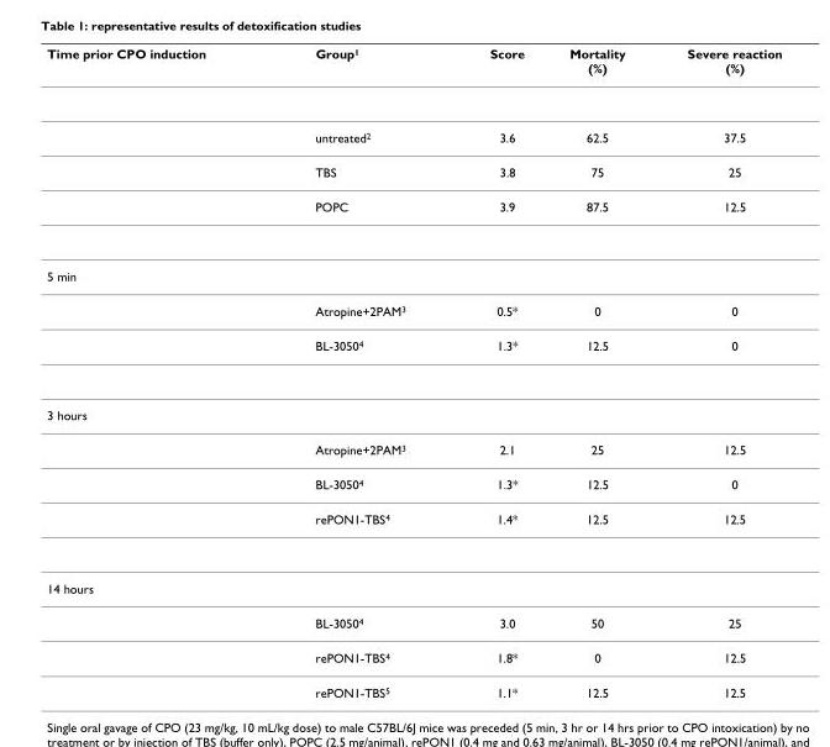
<table><thead><tr><td>Time prior CPO induction</td><td>Group1</td><td>Score</td><td>Mortality (%)</td><td>Severe reaction (%)</td></tr></thead><tbody><tr><td></td><td>untreated2</td><td>3.6</td><td>62.5</td><td>37.5</td></tr><tr><td></td><td>TBS</td><td>3.8</td><td>75</td><td>25</td></tr><tr><td></td><td>POPC</td><td>3.9</td><td>87.5</td><td>12.5</td></tr><tr><td colspan="5">5 min</td></tr><tr><td></td><td>Atropine+2PAM3</td><td>0.5*</td><td>0</td><td>0</td></tr><tr><td></td><td>BL-30504</td><td>1.3*</td><td>12.5</td><td>0</td></tr><tr><td colspan="5">3 hours</td></tr><tr><td></td><td>Atropine+2PAM3</td><td>2.1</td><td>25</td><td>12.5</td></tr><tr><td></td><td>BL-30504</td><td>1.3*</td><td>12.5</td><td>0</td></tr><tr><td></td><td>rePON1-TBS4</td><td>1.4*</td><td>12.5</td><td>12.5</td></tr><tr><td colspan="5">14 hours</td></tr><tr><td></td><td>BL-30504</td><td>3.0</td><td>50</td><td>25</td></tr><tr><td></td><td>rePON1-TBS4</td><td>1.8*</td><td>0</td><td>12.5</td></tr><tr><td></td><td>rePON1-TBS5</td><td>1.1*</td><td>12.5</td><td>12.5</td></tr></tbody></table>